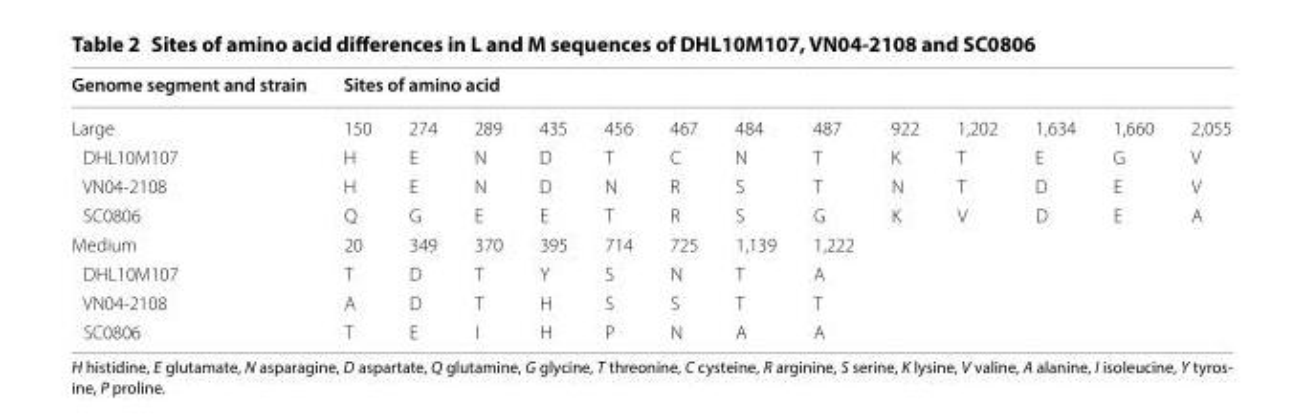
<table><thead><tr><td rowspan="2">Genome segment and strain Large</td><td colspan="13">Sites of amino acid</td></tr><tr><td>150</td><td>274</td><td>289</td><td>435</td><td>456</td><td>467</td><td>484</td><td>487</td><td>922</td><td>1,202</td><td>1,634</td><td>1,660</td><td>2,055</td></tr></thead><tbody><tr><td>DHL10M107</td><td>H</td><td>E</td><td>N</td><td>D</td><td>T</td><td>C</td><td>N</td><td>T</td><td>K</td><td>T</td><td>E</td><td>G</td><td>V</td></tr><tr><td>VN04‑2108</td><td>H</td><td>E</td><td>N</td><td>D</td><td>N</td><td>R</td><td>S</td><td>T</td><td>N</td><td>T</td><td>D</td><td>E</td><td>V</td></tr><tr><td>SC0806</td><td>Q</td><td>G</td><td>E</td><td>E</td><td>T</td><td>R</td><td>S</td><td>G</td><td>K</td><td>V</td><td>D</td><td>E</td><td>A</td></tr><tr><td>Medium</td><td>20</td><td>349</td><td>370</td><td>395</td><td>714</td><td>725</td><td>1,139</td><td>1,222</td><td></td><td></td><td></td><td></td><td></td></tr><tr><td>DHL10M107</td><td>T</td><td>D</td><td>T</td><td>Y</td><td>S</td><td>N</td><td>T</td><td>A</td><td></td><td></td><td></td><td></td><td></td></tr><tr><td>VN04‑2108</td><td>A</td><td>D</td><td>T</td><td>H</td><td>S</td><td>S</td><td>T</td><td>T</td><td></td><td></td><td></td><td></td><td></td></tr><tr><td>SC0806</td><td>T</td><td>E</td><td>I</td><td>H</td><td>P</td><td>N</td><td>A</td><td>A</td><td></td><td></td><td></td><td></td><td></td></tr></tbody></table>